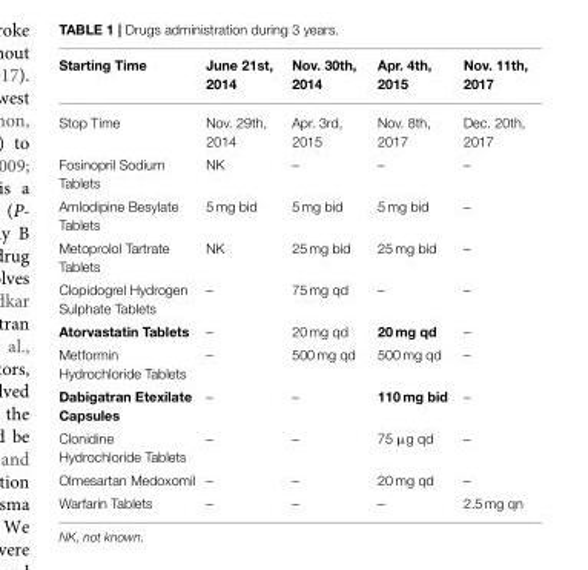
<table><thead><tr><td>Starting Time</td><td>June 21st, 2014</td><td>Nov. 30th, 2014</td><td>Apr. 4th, 2015</td><td>Nov. 11th, 2017</td></tr></thead><tbody><tr><td>Stop Time</td><td>Nov. 29th, 2014</td><td>Apr. 3rd, 2015</td><td>Nov. 8th, 2017</td><td>Dec. 20th, 2017</td></tr><tr><td>Fosinopril Sodium Tablets</td><td>NK</td><td>–</td><td>–</td><td>–</td></tr><tr><td>Amlodipine Besylate Tablets</td><td>5 mg bid</td><td>5 mg bid</td><td>5 mg bid</td><td>–</td></tr><tr><td>Metoprolol Tartrate Tablets</td><td>NK</td><td>25 mg bid</td><td>25 mg bid</td><td>–</td></tr><tr><td>Clopidogrel Hydrogen Sulphate Tablets</td><td>–</td><td>75 mg qd</td><td>–</td><td>–</td></tr><tr><td>Atorvastatin Tablets</td><td>–</td><td>20 mg qd</td><td>20 mg qd</td><td>–</td></tr><tr><td>Metformin Hydrochloride Tablets</td><td>–</td><td>500 mg qd</td><td>500 mg qd</td><td>–</td></tr><tr><td>Dabigatran Etexilate Capsules</td><td>–</td><td>–</td><td>110 mg bid</td><td>–</td></tr><tr><td>Clonidine Hydrochloride Tablets</td><td>–</td><td>–</td><td>75 µg qd</td><td>–</td></tr><tr><td>Olmesartan Medoxomil</td><td>–</td><td>–</td><td>20 mg qd</td><td>–</td></tr><tr><td>Warfarin Tablets</td><td>–</td><td>–</td><td>–</td><td>2.5 mg qn</td></tr></tbody></table>